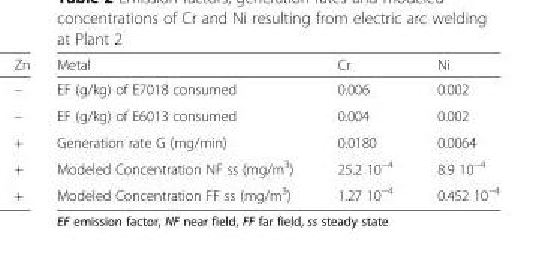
<table><thead><tr><td>Metal</td><td>Cr</td><td>Ni</td></tr></thead><tbody><tr><td>EF (g/kg) of E7018 consumed</td><td>0.006</td><td>0.002</td></tr><tr><td>EF (g/kg) of E6013 consumed</td><td>0.004</td><td>0.002</td></tr><tr><td>Generation rate G (mg/min)</td><td>0.0180</td><td>0.0064</td></tr><tr><td>Modeled Concentration NF ss (mg/m<sup>3</sup>)</td><td>25.2 10<sup>−4</sup></td><td>8.9 10<sup>−4</sup></td></tr><tr><td>Modeled Concentration FF ss (mg/m<sup>3</sup>)</td><td>1.27 10<sup>−4</sup></td><td>0.452 10<sup>−4</sup></td></tr></tbody></table>